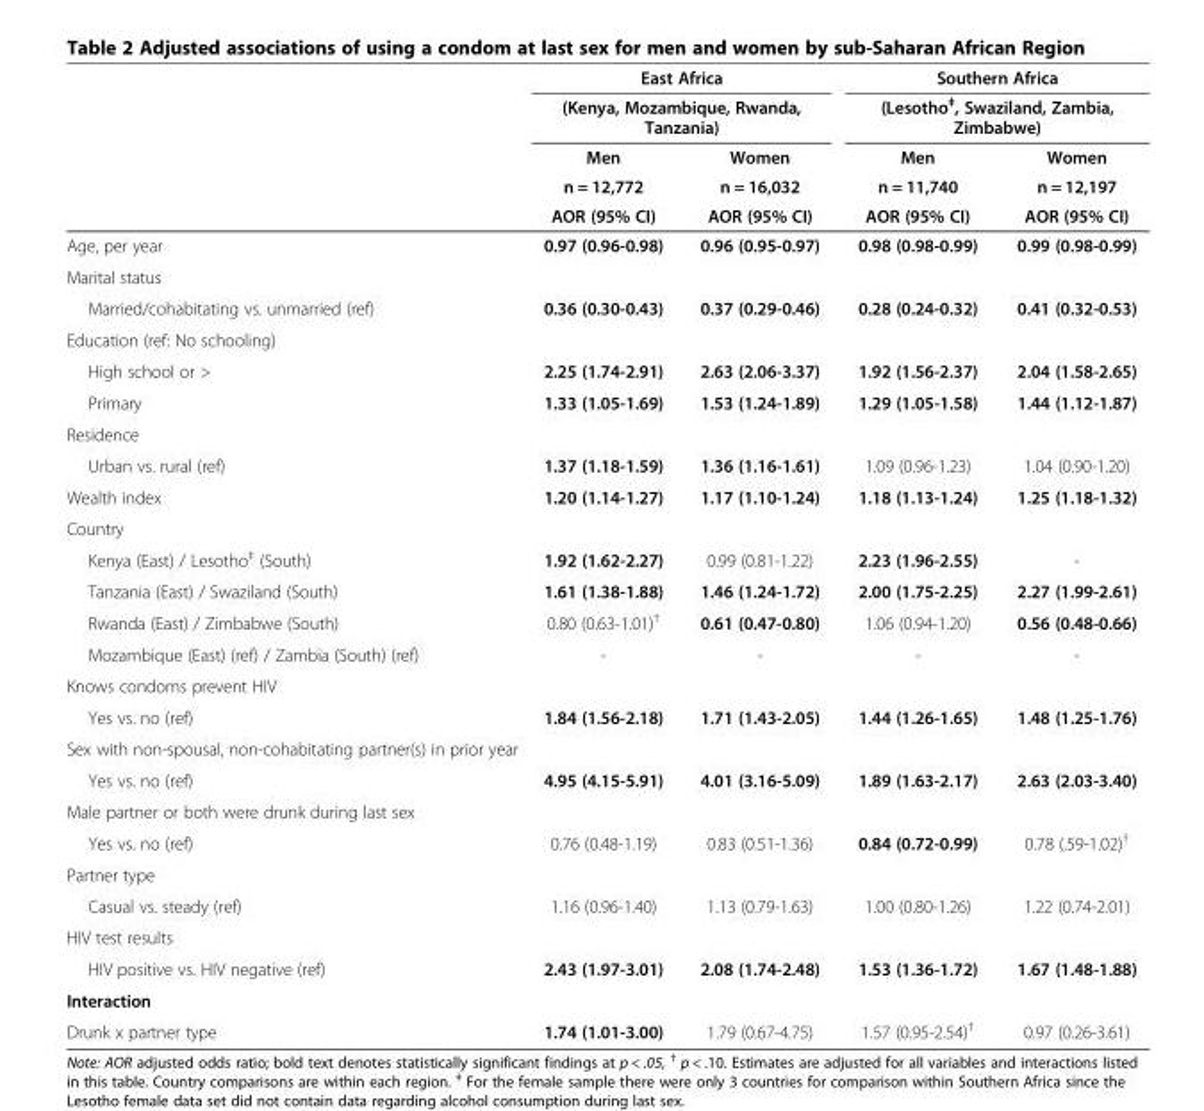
<table><thead><tr><td rowspan="5"></td><td rowspan="2" colspan="2">East Africa (Kenya, Mozambique, Rwanda, Tanzania)</td><td rowspan="2" colspan="2">Southern Africa (Lesotho<sup>‡</sup>, Swaziland, Zambia, Zimbabwe)</td></tr><tr></tr><tr><td rowspan="3">Men n = 12,772 AOR (95% CI)</td><td rowspan="3">Women n = 16,032 AOR (95% CI)</td><td rowspan="3">Men n = 11,740 AOR (95% CI)</td><td rowspan="3">Women n = 12,197 AOR (95% CI)</td></tr><tr></tr><tr></tr></thead><tbody><tr><td>Age, per year</td><td>0.97 (0.96-0.98)</td><td>0.96 (0.95-0.97)</td><td>0.98 (0.98-0.99)</td><td>0.99 (0.98-0.99)</td></tr><tr><td colspan="5">Marital status</td></tr><tr><td>Married/cohabitating vs. unmarried (ref)</td><td>0.36 (0.30-0.43)</td><td>0.37 (0.29-0.46)</td><td>0.28 (0.24-0.32)</td><td>0.41 (0.32-0.53)</td></tr><tr><td colspan="5">Education (ref: No schooling)</td></tr><tr><td>High school or &gt;</td><td>2.25 (1.74-2.91)</td><td>2.63 (2.06-3.37)</td><td>1.92 (1.56-2.37)</td><td>2.04 (1.58-2.65)</td></tr><tr><td>Primary</td><td>1.33 (1.05-1.69)</td><td>1.53 (1.24-1.89)</td><td>1.29 (1.05-1.58)</td><td>1.44 (1.12-1.87)</td></tr><tr><td colspan="5">Residence</td></tr><tr><td>Urban vs. rural (ref)</td><td>1.37 (1.18-1.59)</td><td>1.36 (1.16-1.61)</td><td>1.09 (0.96-1.23)</td><td>1.04 (0.90-1.20)</td></tr><tr><td>Wealth index</td><td>1.20 (1.14-1.27)</td><td>1.17 (1.10-1.24)</td><td>1.18 (1.13-1.24)</td><td>1.25 (1.18-1.32)</td></tr><tr><td colspan="5">Country</td></tr><tr><td>Kenya (East) / Lesotho<sup>‡</sup> (South)</td><td>1.92 (1.62-2.27)</td><td>0.99 (0.81-1.22)</td><td>2.23 (1.96-2.55)</td><td>-</td></tr><tr><td>Tanzania (East) / Swaziland (South)</td><td>1.61 (1.38-1.88)</td><td>1.46 (1.24-1.72)</td><td>2.00 (1.75-2.25)</td><td>2.27 (1.99-2.61)</td></tr><tr><td>Rwanda (East) / Zimbabwe (South)</td><td>0.80 (0.63-1.01)<sup>†</sup></td><td>0.61 (0.47-0.80)</td><td>1.06 (0.94-1.20)</td><td>0.56 (0.48-0.66)</td></tr><tr><td>Mozambique (East) (ref) / Zambia (South) (ref)</td><td>-</td><td>-</td><td>-</td><td>-</td></tr><tr><td colspan="5">Knows condoms prevent HIV</td></tr><tr><td>Yes vs. no (ref)</td><td>1.84 (1.56-2.18)</td><td>1.71 (1.43-2.05)</td><td>1.44 (1.26-1.65)</td><td>1.48 (1.25-1.76)</td></tr><tr><td colspan="5">Sex with non-spousal, non-cohabitating partner(s) in prior year</td></tr><tr><td>Yes vs. no (ref)</td><td>4.95 (4.15-5.91)</td><td>4.01 (3.16-5.09)</td><td>1.89 (1.63-2.17)</td><td>2.63 (2.03-3.40)</td></tr><tr><td colspan="5">Male partner or both were drunk during last sex</td></tr><tr><td>Yes vs. no (ref)</td><td>0.76 (0.48-1.19)</td><td>0.83 (0.51-1.36)</td><td>0.84 (0.72-0.99)</td><td>0.78 (.59-1.02)<sup>†</sup></td></tr><tr><td colspan="5">Partner type</td></tr><tr><td>Casual vs. steady (ref)</td><td>1.16 (0.96-1.40)</td><td>1.13 (0.79-1.63)</td><td>1.00 (0.80-1.26)</td><td>1.22 (0.74-2.01)</td></tr><tr><td colspan="5">HIV test results</td></tr><tr><td>HIV positive vs. HIV negative (ref)</td><td>2.43 (1.97-3.01)</td><td>2.08 (1.74-2.48)</td><td>1.53 (1.36-1.72)</td><td>1.67 (1.48-1.88)</td></tr><tr><td colspan="5">Interaction</td></tr><tr><td>Drunk x partner type</td><td>1.74 (1.01-3.00)</td><td>1.79 (0.67-4.75)</td><td>1.57 (0.95-2.54)<sup>†</sup></td><td>0.97 (0.26-3.61)</td></tr></tbody></table>